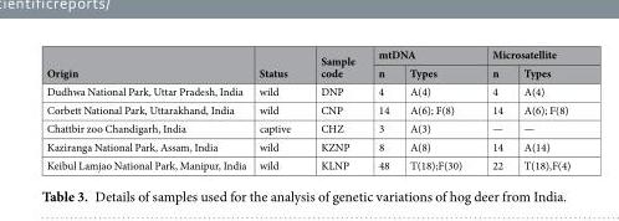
<table><thead><tr><td rowspan="2">Origin</td><td rowspan="2">Status</td><td rowspan="2">Sample code</td><td colspan="2">mtDNA</td><td colspan="2">Microsatellite</td></tr><tr><td>n</td><td>Types</td><td>n</td><td>Types</td></tr></thead><tbody><tr><td>Dudhwa National Park, Uttar Pradesh, India</td><td>wild</td><td>DNP</td><td>4</td><td>A(4)</td><td>4</td><td>A(4)</td></tr><tr><td>Corbett National Park, Uttarakhand, India</td><td>wild</td><td>CNP</td><td>14</td><td>A(6); F(8)</td><td>14</td><td>A(6); F(8)</td></tr><tr><td>Chattbir zoo Chandigarh, India</td><td>captive</td><td>CHZ</td><td>3</td><td>A(3)</td><td>—</td><td>—</td></tr><tr><td>Kaziranga National Park, Assam, India</td><td>wild</td><td>KZNP</td><td>8</td><td>A(8)</td><td>14</td><td>A(14)</td></tr><tr><td>Keibul Lamjao National Park, Manipur, India</td><td>wild</td><td>KLNP</td><td>48</td><td>T(18);F(30)</td><td>22</td><td>T(18),F(4)</td></tr></tbody></table>